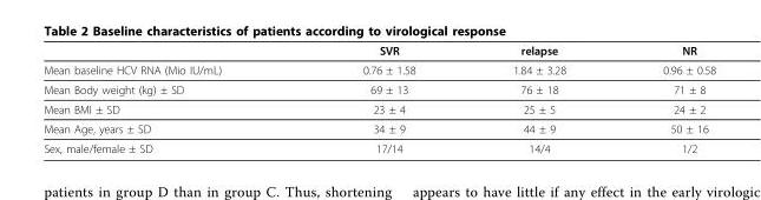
<table><thead><tr><td></td><td>SVR</td><td>relapse</td><td>NR</td></tr></thead><tbody><tr><td>Mean baseline HCV RNA (Mio IU/mL)</td><td>0.76 ± 1.58</td><td>1.84 ± 3.28</td><td>0.96 ± 0.58</td></tr><tr><td>Mean Body weight (kg) ± SD</td><td>69 ± 13</td><td>76 ± 18</td><td>71 ± 8</td></tr><tr><td>Mean BMI ± SD</td><td>23 ± 4</td><td>25 ± 5</td><td>24 ± 2</td></tr><tr><td>Mean Age, years ± SD</td><td>34 ± 9</td><td>44 ± 9</td><td>50 ± 16</td></tr><tr><td>Sex, male/female ± SD</td><td>17/14</td><td>14/4</td><td>1/2</td></tr></tbody></table>